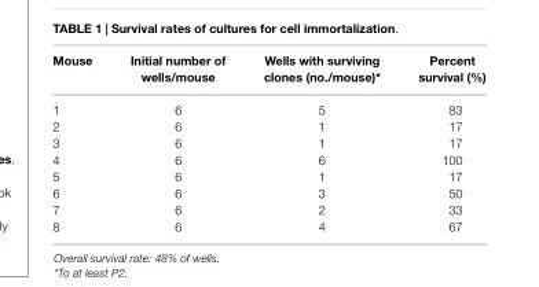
<table><thead><tr><td>Mouse</td><td>Initial number of wells/mouse</td><td>Wells with surviving clones (no./mouse)*</td><td>Percent survival (%)</td></tr></thead><tbody><tr><td>1</td><td>6</td><td>5</td><td>83</td></tr><tr><td>2</td><td>6</td><td>1</td><td>17</td></tr><tr><td>3</td><td>6</td><td>1</td><td>17</td></tr><tr><td>4</td><td>6</td><td>6</td><td>100</td></tr><tr><td>5</td><td>6</td><td>1</td><td>17</td></tr><tr><td>6</td><td>6</td><td>3</td><td>50</td></tr><tr><td>7</td><td>6</td><td>2</td><td>33</td></tr><tr><td>8</td><td>6</td><td>4</td><td>67</td></tr></tbody></table>